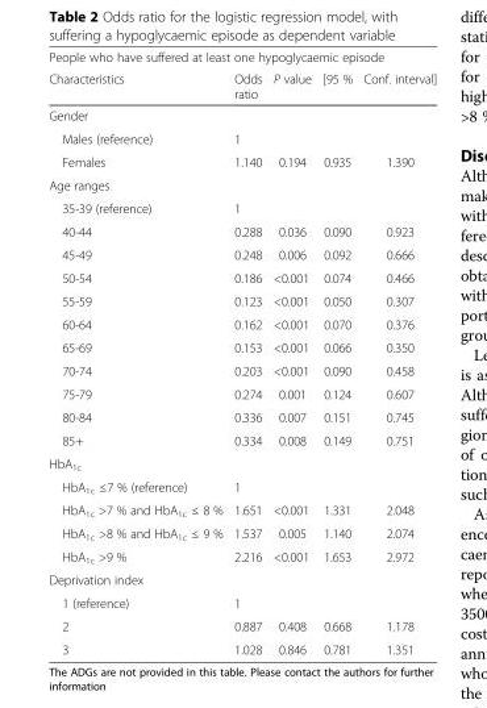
<table><thead><tr><td colspan="5">People who have suffered at least one hypoglycaemic episode</td></tr><tr><td>Characteristics</td><td>Odds ratio</td><td>P value</td><td>[95 %</td><td>Conf. interval]</td></tr></thead><tbody><tr><td colspan="5">Gender</td></tr><tr><td>Males (reference)</td><td>1</td><td></td><td></td><td></td></tr><tr><td>Females</td><td>1.140</td><td>0.194</td><td>0.935</td><td>1.390</td></tr><tr><td colspan="5">Age ranges</td></tr><tr><td>35-39 (reference)</td><td>1</td><td></td><td></td><td></td></tr><tr><td>40-44</td><td>0.288</td><td>0.036</td><td>0.090</td><td>0.923</td></tr><tr><td>45-49</td><td>0.248</td><td>0.006</td><td>0.092</td><td>0.666</td></tr><tr><td>50-54</td><td>0.186</td><td>&lt;0.001</td><td>0.074</td><td>0.466</td></tr><tr><td>55-59</td><td>0.123</td><td>&lt;0.001</td><td>0.050</td><td>0.307</td></tr><tr><td>60-64</td><td>0.162</td><td>&lt;0.001</td><td>0.070</td><td>0.376</td></tr><tr><td>65-69</td><td>0.153</td><td>&lt;0.001</td><td>0.066</td><td>0.350</td></tr><tr><td>70-74</td><td>0.203</td><td>&lt;0.001</td><td>0.090</td><td>0.458</td></tr><tr><td>75-79</td><td>0.274</td><td>0.001</td><td>0.124</td><td>0.607</td></tr><tr><td>80-84</td><td>0.336</td><td>0.007</td><td>0.151</td><td>0.745</td></tr><tr><td>85+</td><td>0.334</td><td>0.008</td><td>0.149</td><td>0.751</td></tr><tr><td colspan="5">HbA<sub>1c</sub></td></tr><tr><td>HbA<sub>1c</sub> ≤7 % (reference)</td><td>1</td><td></td><td></td><td></td></tr><tr><td>HbA<sub>1c</sub> &gt;7 % and HbA<sub>1c</sub> ≤ 8 %</td><td>1.651</td><td>&lt;0.001</td><td>1.331</td><td>2.048</td></tr><tr><td>HbA<sub>1c</sub> &gt;8 % and HbA<sub>1c</sub> ≤ 9 %</td><td>1.537</td><td>0.005</td><td>1.140</td><td>2.074</td></tr><tr><td>HbA<sub>1c</sub> &gt;9 %</td><td>2.216</td><td>&lt;0.001</td><td>1.653</td><td>2.972</td></tr><tr><td colspan="5">Deprivation index</td></tr><tr><td>1 (reference)</td><td>1</td><td></td><td></td><td></td></tr><tr><td>2</td><td>0.887</td><td>0.408</td><td>0.668</td><td>1.178</td></tr><tr><td>3</td><td>1.028</td><td>0.846</td><td>0.781</td><td>1.351</td></tr></tbody></table>